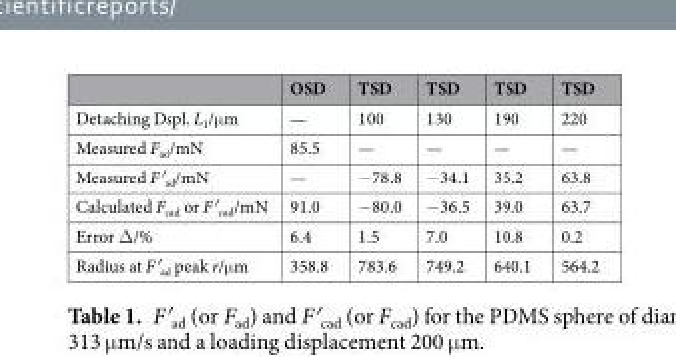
<table><thead><tr><td></td><td>OSD</td><td>TSD</td><td>TSD</td><td>TSD</td><td>TSD</td></tr></thead><tbody><tr><td>Detaching Dspl. L<sub>1</sub>/μm</td><td>—</td><td>100</td><td>130</td><td>190</td><td>220</td></tr><tr><td>Measured F<sub>ad</sub>/mN</td><td>85.5</td><td>—</td><td>—</td><td>—</td><td>—</td></tr><tr><td>Measured F′<sub>ad</sub>/mN</td><td>—</td><td>−78.8</td><td>−34.1</td><td>35.2</td><td>63.8</td></tr><tr><td>Calculated F<sub>cad</sub> or F′<sub>cad</sub>/mN</td><td>91.0</td><td>−80.0</td><td>−36.5</td><td>39.0</td><td>63.7</td></tr><tr><td>Error Δ/%</td><td>6.4</td><td>1.5</td><td>7.0</td><td>10.8</td><td>0.2</td></tr><tr><td>Radius at F′<sub>ad</sub> peak r/μm</td><td>358.8</td><td>783.6</td><td>749.2</td><td>640.1</td><td>564.2</td></tr></tbody></table>